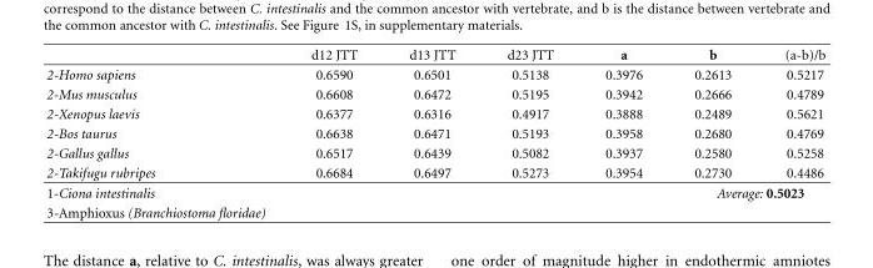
<table><thead><tr><td></td><td>d12 JTT</td><td>d13 JTT</td><td>d23 JTT</td><td>a</td><td>b</td><td>(a-b)/b</td></tr></thead><tbody><tr><td>2-Homo sapiens</td><td>0.6590</td><td>0.6501</td><td>0.5138</td><td>0.3976</td><td>0.2613</td><td>0.5217</td></tr><tr><td>2-Mus musculus</td><td>0.6608</td><td>0.6472</td><td>0.5195</td><td>0.3942</td><td>0.2666</td><td>0.4789</td></tr><tr><td>2-Xenopus laevis</td><td>0.6377</td><td>0.6316</td><td>0.4917</td><td>0.3888</td><td>0.2489</td><td>0.5621</td></tr><tr><td>2-Bos taurus</td><td>0.6638</td><td>0.6471</td><td>0.5193</td><td>0.3958</td><td>0.2680</td><td>0.4769</td></tr><tr><td>2-Gallus gallus</td><td>0.6517</td><td>0.6439</td><td>0.5082</td><td>0.3937</td><td>0.2580</td><td>0.5258</td></tr><tr><td>2-Takifugu rubripes</td><td>0.6684</td><td>0.6497</td><td>0.5273</td><td>0.3954</td><td>0.2730</td><td>0.4486</td></tr><tr><td>1-Ciona intestinalis</td><td></td><td></td><td></td><td></td><td colspan="2">Average: 0.5023</td></tr><tr><td>3-Amphioxus (Branchiostoma floridae)</td><td></td><td></td><td></td><td></td><td></td><td></td></tr></tbody></table>